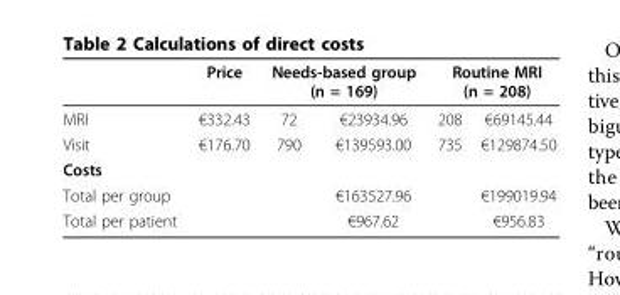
<table><thead><tr><td rowspan="2">MRI</td><td rowspan="2">Price €332.43</td><td colspan="2">Needs-based group (n = 169)</td><td colspan="2">Routine MRI (n = 208)</td></tr><tr><td>72</td><td>€23934.96</td><td>208</td><td>€69145.44</td></tr></thead><tbody><tr><td>Visit</td><td>€176.70</td><td>790</td><td>€139593.00</td><td>735</td><td>€129874.50</td></tr><tr><td colspan="6">Costs</td></tr><tr><td>Total per group</td><td></td><td></td><td>€163527.96</td><td></td><td>€199019.94</td></tr><tr><td>Total per patient</td><td></td><td></td><td>€967.62</td><td></td><td>€956.83</td></tr></tbody></table>